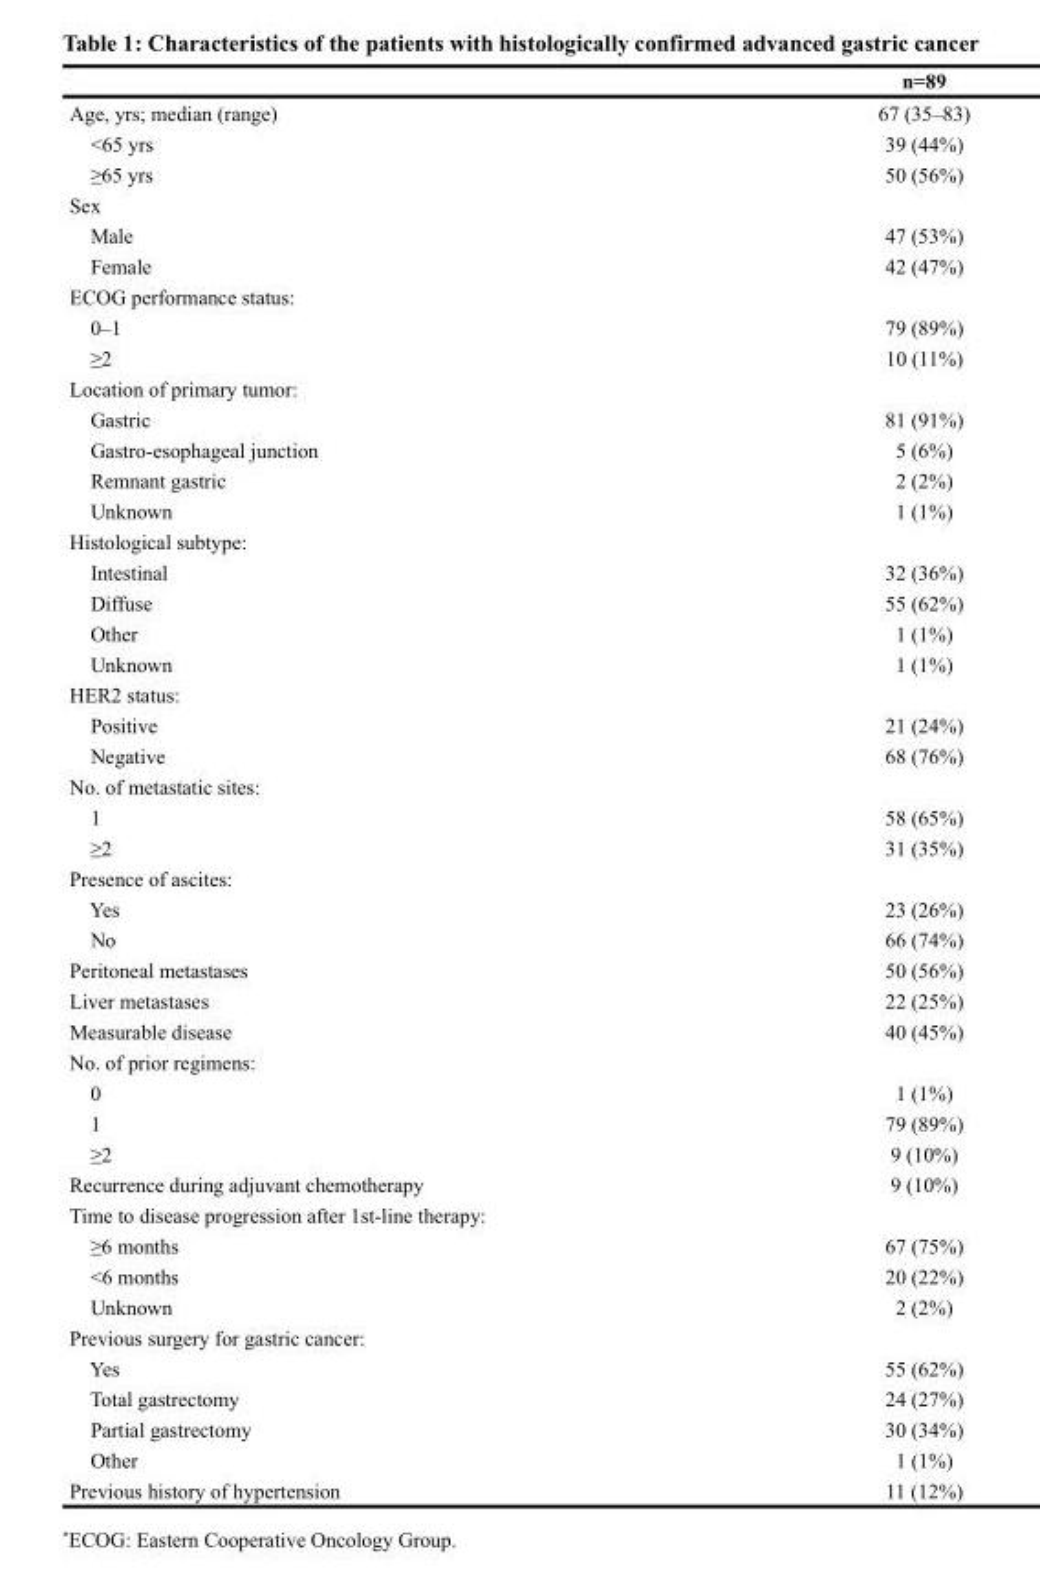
<table><thead><tr><td></td><td>n=89</td></tr></thead><tbody><tr><td>Age, yrs; median (range)</td><td>67 (35–83)</td></tr><tr><td>&lt;65 yrs</td><td>39 (44%)</td></tr><tr><td>≥65 yrs</td><td>50 (56%)</td></tr><tr><td colspan="2">Sex</td></tr><tr><td>Male</td><td>47 (53%)</td></tr><tr><td>Female</td><td>42 (47%)</td></tr><tr><td colspan="2">ECOG performance status:</td></tr><tr><td>0–1</td><td>79 (89%)</td></tr><tr><td>≥2</td><td>10 (11%)</td></tr><tr><td colspan="2">Location of primary tumor:</td></tr><tr><td>Gastric</td><td>81 (91%)</td></tr><tr><td>Gastro-esophageal junction</td><td>5 (6%)</td></tr><tr><td>Remnant gastric</td><td>2 (2%)</td></tr><tr><td>Unknown</td><td>1 (1%)</td></tr><tr><td colspan="2">Histological subtype:</td></tr><tr><td>Intestinal</td><td>32 (36%)</td></tr><tr><td>Diffuse</td><td>55 (62%)</td></tr><tr><td>Other</td><td>1 (1%)</td></tr><tr><td>Unknown</td><td>1 (1%)</td></tr><tr><td colspan="2">HER2 status:</td></tr><tr><td>Positive</td><td>21 (24%)</td></tr><tr><td>Negative</td><td>68 (76%)</td></tr><tr><td colspan="2">No. of metastatic sites:</td></tr><tr><td>1</td><td>58 (65%)</td></tr><tr><td>≥2</td><td>31 (35%)</td></tr><tr><td colspan="2">Presence of ascites:</td></tr><tr><td>Yes</td><td>23 (26%)</td></tr><tr><td>No</td><td>66 (74%)</td></tr><tr><td>Peritoneal metastases</td><td>50 (56%)</td></tr><tr><td>Liver metastases</td><td>22 (25%)</td></tr><tr><td>Measurable disease</td><td>40 (45%)</td></tr><tr><td colspan="2">No. of prior regimens:</td></tr><tr><td>0</td><td>1 (1%)</td></tr><tr><td>1</td><td>79 (89%)</td></tr><tr><td>≥2</td><td>9 (10%)</td></tr><tr><td>Recurrence during adjuvant chemotherapy</td><td>9 (10%)</td></tr><tr><td colspan="2">Time to disease progression after 1st-line therapy:</td></tr><tr><td>≥6 months</td><td>67 (75%)</td></tr><tr><td>&lt;6 months</td><td>20 (22%)</td></tr><tr><td>Unknown</td><td>2 (2%)</td></tr><tr><td colspan="2">Previous surgery for gastric cancer:</td></tr><tr><td>Yes</td><td>55 (62%)</td></tr><tr><td>Total gastrectomy</td><td>24 (27%)</td></tr><tr><td>Partial gastrectomy</td><td>30 (34%)</td></tr><tr><td>Other</td><td>1 (1%)</td></tr><tr><td>Previous history of hypertension</td><td>11 (12%)</td></tr></tbody></table>